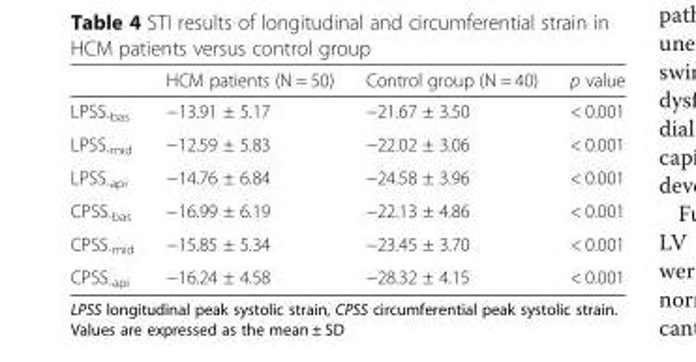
<table><thead><tr><td></td><td>HCM patients (N = 50)</td><td>Control group (N = 40)</td><td>p value</td></tr></thead><tbody><tr><td>LPSS<sub>-bas</sub></td><td>−13.91 ± 5.17</td><td>−21.67 ± 3.50</td><td>&lt; 0.001</td></tr><tr><td>LPSS<sub>-mid</sub></td><td>−12.59 ± 5.83</td><td>−22.02 ± 3.06</td><td>&lt; 0.001</td></tr><tr><td>LPSS<sub>-api</sub></td><td>−14.76 ± 6.84</td><td>−24.58 ± 3.96</td><td>&lt; 0.001</td></tr><tr><td>CPSS<sub>-bas</sub></td><td>−16.99 ± 6.19</td><td>−22.13 ± 4.86</td><td>&lt; 0.001</td></tr><tr><td>CPSS<sub>-mid</sub></td><td>−15.85 ± 5.34</td><td>−23.45 ± 3.70</td><td>&lt; 0.001</td></tr><tr><td>CPSS<sub>-api</sub></td><td>−16.24 ± 4.58</td><td>−28.32 ± 4.15</td><td>&lt; 0.001</td></tr></tbody></table>